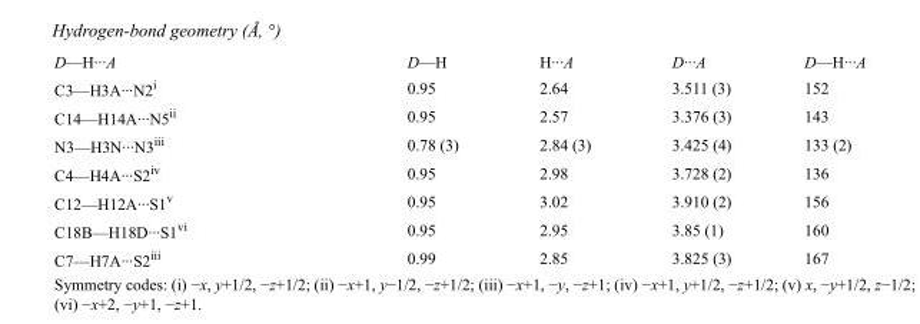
<table><tbody><tr><td>D—H···A</td><td>D—H</td><td>H···A</td><td>D···A</td><td>D—H···A</td></tr><tr><td>C3—H3A···N2<sup>i</sup></td><td>0.95</td><td>2.64</td><td>3.511 (3)</td><td>152</td></tr><tr><td>C14—H14A···N5<sup>ii</sup></td><td>0.95</td><td>2.57</td><td>3.376 (3)</td><td>143</td></tr><tr><td>N3—H3N···N3<sup>iii</sup></td><td>0.78 (3)</td><td>2.84 (3)</td><td>3.425 (4)</td><td>133 (2)</td></tr><tr><td>C4—H4A···S2<sup>iv</sup></td><td>0.95</td><td>2.98</td><td>3.728 (2)</td><td>136</td></tr><tr><td>C12—H12A···S1<sup>v</sup></td><td>0.95</td><td>3.02</td><td>3.910 (2)</td><td>156</td></tr><tr><td>C18B—H18D···S1<sup>vi</sup></td><td>0.95</td><td>2.95</td><td>3.85 (1)</td><td>160</td></tr><tr><td>C7—H7A···S2<sup>iii</sup></td><td>0.99</td><td>2.85</td><td>3.825 (3)</td><td>167</td></tr></tbody></table>